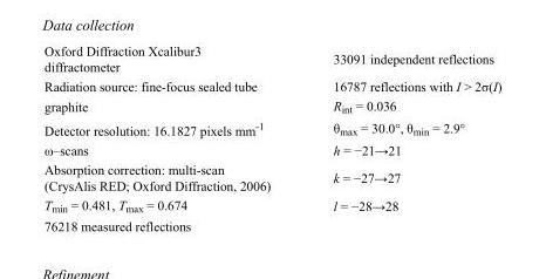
<table><tbody><tr><td>Oxford Diffraction Xcalibur3 diffractometer</td><td>33091 independent reflections</td></tr><tr><td>Radiation source: fine-focus sealed tube</td><td>16787 reflections with I &gt; 2σ(I)</td></tr><tr><td>graphite</td><td>R<sub>int</sub> = 0.036</td></tr><tr><td>Detector resolution: 16.1827 pixels mm<sup>-1</sup></td><td>θ<sub>max</sub> = 30.0°, θ<sub>min</sub> = 2.9°</td></tr><tr><td>ω–scans</td><td>h = −21→21</td></tr><tr><td>Absorption correction: multi-scan (CrysAlis RED; Oxford Diffraction, 2006)</td><td>k = −27→27</td></tr><tr><td>T<sub>min</sub> = 0.481, T<sub>max</sub> = 0.674</td><td>l = −28→28</td></tr><tr><td>76218 measured reflections</td><td></td></tr></tbody></table>